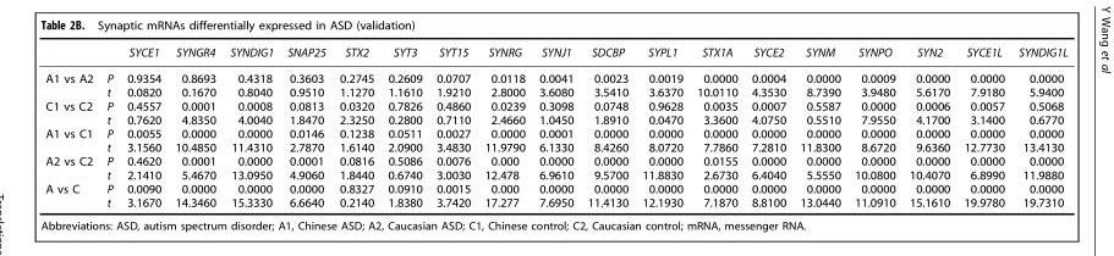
<table><thead><tr><td></td><td></td><td>SYCE1</td><td>SYNGR4</td><td>SYNDIG1</td><td>SNAP25</td><td>STX2</td><td>SYT3</td><td>SYT15</td><td>SYNRG</td><td>SYNJ1</td><td>SDCBP</td><td>SYPL1</td><td>STX1A</td><td>SYCE2</td><td>SYNM</td><td>SYNPO</td><td>SYN2</td><td>SYCE1L</td><td>SYNDIG1L</td></tr></thead><tbody><tr><td rowspan="2">A1 vs A2</td><td>P</td><td>0.9354</td><td>0.8693</td><td>0.4318</td><td>0.3603</td><td>0.2745</td><td>0.2609</td><td>0.0707</td><td>0.0118</td><td>0.0041</td><td>0.0023</td><td>0.0019</td><td>0.0000</td><td>0.0004</td><td>0.0000</td><td>0.0009</td><td>0.0000</td><td>0.0000</td><td>0.0000</td></tr><tr><td>t</td><td>0.0820</td><td>0.1670</td><td>0.8040</td><td>0.9510</td><td>1.1270</td><td>1.1610</td><td>1.9210</td><td>2.8000</td><td>3.6080</td><td>3.5410</td><td>3.6370</td><td>10.0110</td><td>4.3530</td><td>8.7390</td><td>3.9480</td><td>5.6170</td><td>7.9180</td><td>5.9400</td></tr><tr><td rowspan="2">C1 vs C2</td><td>P</td><td>0.4557</td><td>0.0001</td><td>0.0008</td><td>0.0813</td><td>0.0320</td><td>0.7826</td><td>0.4860</td><td>0.0239</td><td>0.3098</td><td>0.0748</td><td>0.9628</td><td>0.0035</td><td>0.0007</td><td>0.5587</td><td>0.0000</td><td>0.0006</td><td>0.0057</td><td>0.5068</td></tr><tr><td>t</td><td>0.7620</td><td>4.8350</td><td>4.0040</td><td>1.8470</td><td>2.3250</td><td>0.2800</td><td>0.7110</td><td>2.4660</td><td>1.0450</td><td>1.8910</td><td>0.0470</td><td>3.3600</td><td>4.0750</td><td>0.5510</td><td>7.9550</td><td>4.1700</td><td>3.1400</td><td>0.6770</td></tr><tr><td rowspan="2">A1 vs C1</td><td>P</td><td>0.0055</td><td>0.0000</td><td>0.0000</td><td>0.0146</td><td>0.1238</td><td>0.0511</td><td>0.0027</td><td>0.0000</td><td>0.0001</td><td>0.0000</td><td>0.0000</td><td>0.0000</td><td>0.0000</td><td>0.0000</td><td>0.0000</td><td>0.0000</td><td>0.0000</td><td>0.0000</td></tr><tr><td>t</td><td>3.1560</td><td>10.4850</td><td>11.4310</td><td>2.7870</td><td>1.6140</td><td>2.0900</td><td>3.4830</td><td>11.9790</td><td>6.1330</td><td>8.4260</td><td>8.0720</td><td>7.7860</td><td>7.2810</td><td>11.8300</td><td>8.6720</td><td>9.6360</td><td>12.7730</td><td>13.4130</td></tr><tr><td rowspan="2">A2 vs C2</td><td>P</td><td>0.4620</td><td>0.0001</td><td>0.0000</td><td>0.0001</td><td>0.0816</td><td>0.5086</td><td>0.0076</td><td>0.000</td><td>0.0000</td><td>0.0000</td><td>0.0000</td><td>0.0155</td><td>0.0000</td><td>0.0000</td><td>0.0000</td><td>0.0000</td><td>0.0000</td><td>0.0000</td></tr><tr><td>t</td><td>2.1410</td><td>5.4670</td><td>13.0950</td><td>4.9060</td><td>1.8440</td><td>0.6740</td><td>3.0030</td><td>12.478</td><td>6.9610</td><td>9.5700</td><td>11.8830</td><td>2.6730</td><td>6.4040</td><td>5.5550</td><td>10.0800</td><td>10.4070</td><td>6.8990</td><td>11.9880</td></tr><tr><td rowspan="2">A vs C</td><td>P</td><td>0.0090</td><td>0.0000</td><td>0.0000</td><td>0.0000</td><td>0.8327</td><td>0.0910</td><td>0.0015</td><td>0.000</td><td>0.0000</td><td>0.0000</td><td>0.0000</td><td>0.0000</td><td>0.0000</td><td>0.0000</td><td>0.0000</td><td>0.0000</td><td>0.0000</td><td>0.0000</td></tr><tr><td>t</td><td>3.1670</td><td>14.3460</td><td>15.3330</td><td>6.6640</td><td>0.2140</td><td>1.8380</td><td>3.7420</td><td>17.277</td><td>7.6950</td><td>11.4130</td><td>12.1930</td><td>7.1870</td><td>8.8100</td><td>13.0440</td><td>11.0910</td><td>15.1610</td><td>19.9780</td><td>19.7310</td></tr></tbody></table>